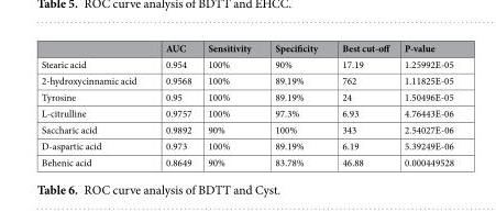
<table><thead><tr><td></td><td>AUC</td><td>Sensitivity</td><td>Specificity</td><td>Best cut-off</td><td>P-value</td></tr></thead><tbody><tr><td>Stearic acid</td><td>0.954</td><td>100%</td><td>90%</td><td>17.19</td><td>1.25992E-05</td></tr><tr><td>2-hydroxycinnamic acid</td><td>0.9568</td><td>100%</td><td>89.19%</td><td>762</td><td>1.11825E-05</td></tr><tr><td>Tyrosine</td><td>0.95</td><td>100%</td><td>89.19%</td><td>24</td><td>1.50496E-05</td></tr><tr><td>L-citrulline</td><td>0.9757</td><td>100%</td><td>97.3%</td><td>6.93</td><td>4.76443E-06</td></tr><tr><td>Saccharic acid</td><td>0.9892</td><td>90%</td><td>100%</td><td>343</td><td>2.54027E-06</td></tr><tr><td>D-aspartic acid</td><td>0.973</td><td>100%</td><td>89.19%</td><td>6.19</td><td>5.39249E-06</td></tr><tr><td>Behenic acid</td><td>0.8649</td><td>90%</td><td>83.78%</td><td>46.88</td><td>0.000449528</td></tr></tbody></table>